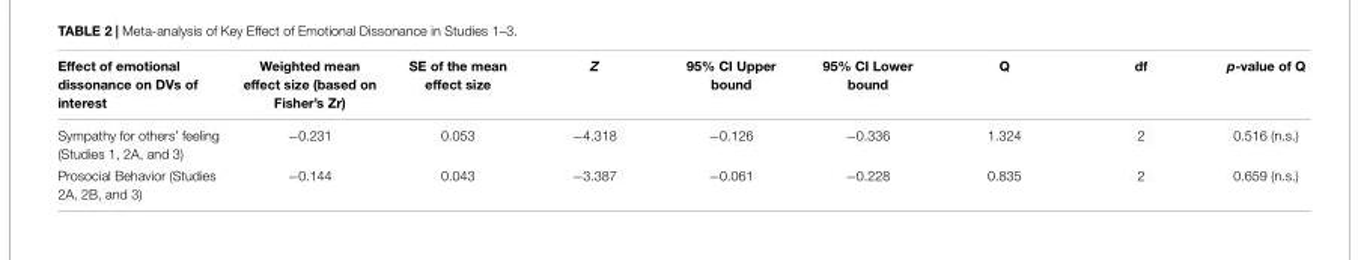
<table><thead><tr><td>Effect of emotional dissonance on DVs of interest</td><td>Weighted mean effect size (based on Fisher’s Zr)</td><td>SE of the mean effect size</td><td>Z</td><td>95% CI Upper bound</td><td>95% CI Lower bound</td><td>Q</td><td>df</td><td>p-value of Q</td></tr></thead><tbody><tr><td>Sympathy for others’ feeling (Studies 1, 2A, and 3)</td><td>−0.231</td><td>0.053</td><td>−4.318</td><td>−0.126</td><td>−0.336</td><td>1.324</td><td>2</td><td>0.516 (n.s.)</td></tr><tr><td>Prosocial Behavior (Studies 2A, 2B, and 3)</td><td>−0.144</td><td>0.043</td><td>−3.387</td><td>−0.061</td><td>−0.228</td><td>0.835</td><td>2</td><td>0.659 (n.s.)</td></tr></tbody></table>